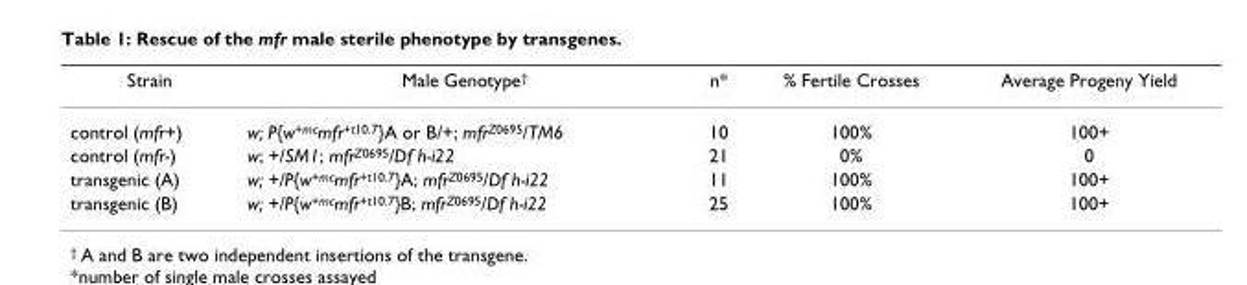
<table><thead><tr><td>Strain</td><td>Male Genotype<sup>†</sup></td><td>n*</td><td>% Fertile Crosses</td><td>Average Progeny Yield</td></tr></thead><tbody><tr><td>control (mfr+)</td><td>w; P{w<sup>+mc</sup>mfr<sup>+t10.7</sup>}A or B/+; mfr<sup>Z0695</sup>/TM6</td><td>10</td><td>100%</td><td>100+</td></tr><tr><td>control (mfr-)</td><td>w; +/SM1; mfr<sup>Z0695</sup>/Df h-i22</td><td>21</td><td>0%</td><td>0</td></tr><tr><td>transgenic (A)</td><td>w; +/P{w<sup>+mc</sup>mfr<sup>+t10.7</sup>}A; mfr<sup>Z0695</sup>/Df h-i22</td><td>11</td><td>100%</td><td>100+</td></tr><tr><td>transgenic (B)</td><td>w; +/P{w<sup>+mc</sup>mfr<sup>+t10.7</sup>}B; mfr<sup>Z0695</sup>/Df h-i22</td><td>25</td><td>100%</td><td>100+</td></tr></tbody></table>